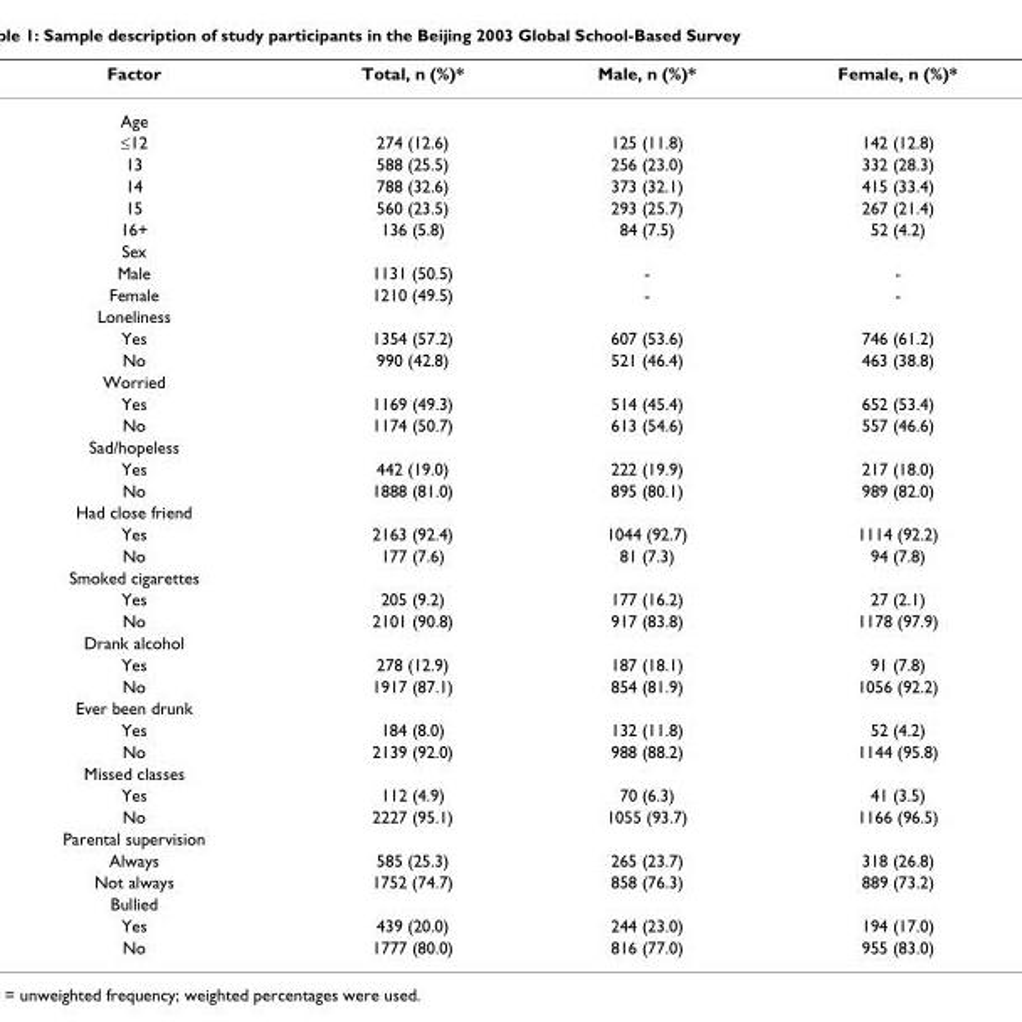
<table><thead><tr><td>Factor</td><td>Total, n (%)*</td><td>Male, n (%)*</td><td>Female, n (%)*</td></tr></thead><tbody><tr><td colspan="4">Age</td></tr><tr><td>≤12</td><td>274 (12.6)</td><td>125 (11.8)</td><td>142 (12.8)</td></tr><tr><td>13</td><td>588 (25.5)</td><td>256 (23.0)</td><td>332 (28.3)</td></tr><tr><td>14</td><td>788 (32.6)</td><td>373 (32.1)</td><td>415 (33.4)</td></tr><tr><td>15</td><td>560 (23.5)</td><td>293 (25.7)</td><td>267 (21.4)</td></tr><tr><td>16+</td><td>136 (5.8)</td><td>84 (7.5)</td><td>52 (4.2)</td></tr><tr><td colspan="4">Sex</td></tr><tr><td>Male</td><td>1131 (50.5)</td><td>-</td><td>-</td></tr><tr><td>Female</td><td>1210 (49.5)</td><td>-</td><td>-</td></tr><tr><td colspan="4">Loneliness</td></tr><tr><td>Yes</td><td>1354 (57.2)</td><td>607 (53.6)</td><td>746 (61.2)</td></tr><tr><td>No</td><td>990 (42.8)</td><td>521 (46.4)</td><td>463 (38.8)</td></tr><tr><td colspan="4">Worried</td></tr><tr><td>Yes</td><td>1169 (49.3)</td><td>514 (45.4)</td><td>652 (53.4)</td></tr><tr><td>No</td><td>1174 (50.7)</td><td>613 (54.6)</td><td>557 (46.6)</td></tr><tr><td colspan="4">Sad/hopeless</td></tr><tr><td>Yes</td><td>442 (19.0)</td><td>222 (19.9)</td><td>217 (18.0)</td></tr><tr><td>No</td><td>1888 (81.0)</td><td>895 (80.1)</td><td>989 (82.0)</td></tr><tr><td colspan="4">Had close friend</td></tr><tr><td>Yes</td><td>2163 (92.4)</td><td>1044 (92.7)</td><td>1114 (92.2)</td></tr><tr><td>No</td><td>177 (7.6)</td><td>81 (7.3)</td><td>94 (7.8)</td></tr><tr><td colspan="4">Smoked cigarettes</td></tr><tr><td>Yes</td><td>205 (9.2)</td><td>177 (16.2)</td><td>27 (2.1)</td></tr><tr><td>No</td><td>2101 (90.8)</td><td>917 (83.8)</td><td>1178 (97.9)</td></tr><tr><td colspan="4">Drank alcohol</td></tr><tr><td>Yes</td><td>278 (12.9)</td><td>187 (18.1)</td><td>91 (7.8)</td></tr><tr><td>No</td><td>1917 (87.1)</td><td>854 (81.9)</td><td>1056 (92.2)</td></tr><tr><td colspan="4">Ever been drunk</td></tr><tr><td>Yes</td><td>184 (8.0)</td><td>132 (11.8)</td><td>52 (4.2)</td></tr><tr><td>No</td><td>2139 (92.0)</td><td>988 (88.2)</td><td>1144 (95.8)</td></tr><tr><td colspan="4">Missed classes</td></tr><tr><td>Yes</td><td>112 (4.9)</td><td>70 (6.3)</td><td>41 (3.5)</td></tr><tr><td>No</td><td>2227 (95.1)</td><td>1055 (93.7)</td><td>1166 (96.5)</td></tr><tr><td colspan="4">Parental supervision</td></tr><tr><td>Always</td><td>585 (25.3)</td><td>265 (23.7)</td><td>318 (26.8)</td></tr><tr><td>Not always</td><td>1752 (74.7)</td><td>858 (76.3)</td><td>889 (73.2)</td></tr><tr><td colspan="4">Bullied</td></tr><tr><td>Yes</td><td>439 (20.0)</td><td>244 (23.0)</td><td>194 (17.0)</td></tr><tr><td>No</td><td>1777 (80.0)</td><td>816 (77.0)</td><td>955 (83.0)</td></tr></tbody></table>